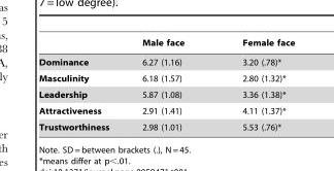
<table><thead><tr><td></td><td>Male face</td><td>Female face</td></tr></thead><tbody><tr><td>Dominance</td><td>6.27 (1.16)</td><td>3.20 (.78)*</td></tr><tr><td>Masculinity</td><td>6.18 (1.57)</td><td>2.80 (1.32)*</td></tr><tr><td>Leadership</td><td>5.87 (1.08)</td><td>3.36 (1.38)*</td></tr><tr><td>Attractiveness</td><td>2.91 (1.41)</td><td>4.11 (1.37)*</td></tr><tr><td>Trustworthiness</td><td>2.98 (1.01)</td><td>5.53 (.76)*</td></tr></tbody></table>